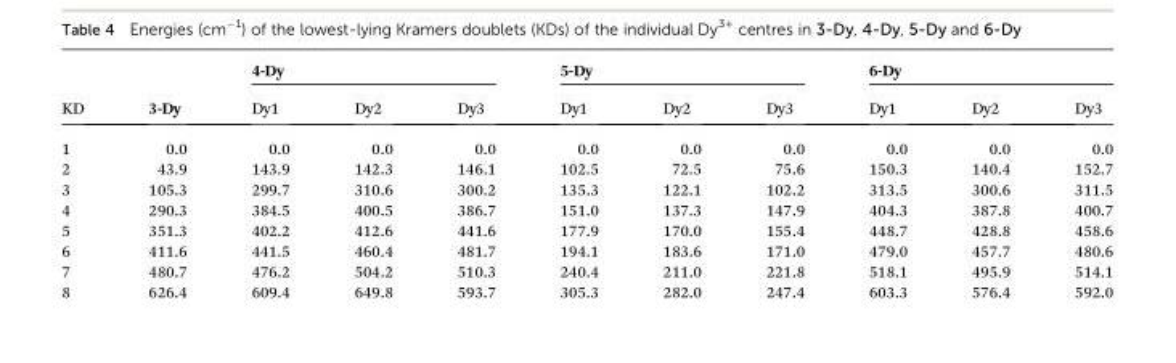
<table><thead><tr><td rowspan="2">KD</td><td rowspan="2">3-Dy</td><td colspan="3">4-Dy</td><td colspan="3">5-Dy</td><td colspan="3">6-Dy</td></tr><tr><td>Dy1</td><td>Dy2</td><td>Dy3</td><td>Dy1</td><td>Dy2</td><td>Dy3</td><td>Dy1</td><td>Dy2</td><td>Dy3</td></tr></thead><tbody><tr><td>1</td><td>0.0</td><td>0.0</td><td>0.0</td><td>0.0</td><td>0.0</td><td>0.0</td><td>0.0</td><td>0.0</td><td>0.0</td><td>0.0</td></tr><tr><td>2</td><td>43.9</td><td>143.9</td><td>142.3</td><td>146.1</td><td>102.5</td><td>72.5</td><td>75.6</td><td>150.3</td><td>140.4</td><td>152.7</td></tr><tr><td>3</td><td>105.3</td><td>299.7</td><td>310.6</td><td>300.2</td><td>135.3</td><td>122.1</td><td>102.2</td><td>313.5</td><td>300.6</td><td>311.5</td></tr><tr><td>4</td><td>290.3</td><td>384.5</td><td>400.5</td><td>386.7</td><td>151.0</td><td>137.3</td><td>147.9</td><td>404.3</td><td>387.8</td><td>400.7</td></tr><tr><td>5</td><td>351.3</td><td>402.2</td><td>412.6</td><td>441.6</td><td>177.9</td><td>170.0</td><td>155.4</td><td>448.7</td><td>428.8</td><td>458.6</td></tr><tr><td>6</td><td>411.6</td><td>441.5</td><td>460.4</td><td>481.7</td><td>194.1</td><td>183.6</td><td>171.0</td><td>479.0</td><td>457.7</td><td>480.6</td></tr><tr><td>7</td><td>480.7</td><td>476.2</td><td>504.2</td><td>510.3</td><td>240.4</td><td>211.0</td><td>221.8</td><td>518.1</td><td>495.9</td><td>514.1</td></tr><tr><td>8</td><td>626.4</td><td>609.4</td><td>649.8</td><td>593.7</td><td>305.3</td><td>282.0</td><td>247.4</td><td>603.3</td><td>576.4</td><td>592.0</td></tr></tbody></table>